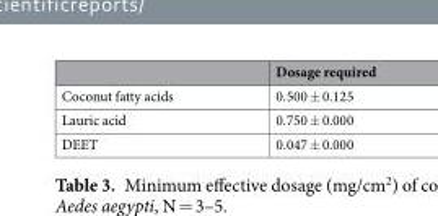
<table><thead><tr><td></td><td>Dosage required</td></tr></thead><tbody><tr><td>Coconut fatty acids</td><td>0.500 ± 0.125</td></tr><tr><td>Lauric acid</td><td>0.750 ± 0.000</td></tr><tr><td>DEET</td><td>0.047 ± 0.000</td></tr></tbody></table>